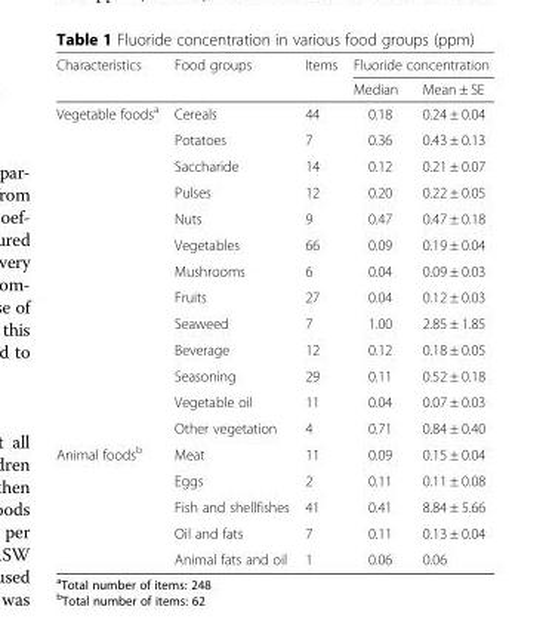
<table><thead><tr><td rowspan="2">Characteristics</td><td rowspan="2">Food groups</td><td rowspan="2">Items</td><td colspan="2">Fluoride concentration</td></tr><tr><td>Median</td><td>Mean ± SE</td></tr></thead><tbody><tr><td rowspan="13">Vegetable foods<sup>a</sup></td><td>Cereals</td><td>44</td><td>0.18</td><td>0.24 ± 0.04</td></tr><tr><td>Potatoes</td><td>7</td><td>0.36</td><td>0.43 ± 0.13</td></tr><tr><td>Saccharide</td><td>14</td><td>0.12</td><td>0.21 ± 0.07</td></tr><tr><td>Pulses</td><td>12</td><td>0.20</td><td>0.22 ± 0.05</td></tr><tr><td>Nuts</td><td>9</td><td>0.47</td><td>0.47 ± 0.18</td></tr><tr><td>Vegetables</td><td>66</td><td>0.09</td><td>0.19 ± 0.04</td></tr><tr><td>Mushrooms</td><td>6</td><td>0.04</td><td>0.09 ± 0.03</td></tr><tr><td>Fruits</td><td>27</td><td>0.04</td><td>0.12 ± 0.03</td></tr><tr><td>Seaweed</td><td>7</td><td>1.00</td><td>2.85 ± 1.85</td></tr><tr><td>Beverage</td><td>12</td><td>0.12</td><td>0.18 ± 0.05</td></tr><tr><td>Seasoning</td><td>29</td><td>0.11</td><td>0.52 ± 0.18</td></tr><tr><td>Vegetable oil</td><td>11</td><td>0.04</td><td>0.07 ± 0.03</td></tr><tr><td>Other vegetation</td><td>4</td><td>0.71</td><td>0.84 ± 0.40</td></tr><tr><td rowspan="5">Animal foods<sup>b</sup></td><td>Meat</td><td>11</td><td>0.09</td><td>0.15 ± 0.04</td></tr><tr><td>Eggs</td><td>2</td><td>0.11</td><td>0.11 ± 0.08</td></tr><tr><td>Fish and shellfishes</td><td>41</td><td>0.41</td><td>8.84 ± 5.66</td></tr><tr><td>Oil and fats</td><td>7</td><td>0.11</td><td>0.13 ± 0.04</td></tr><tr><td>Animal fats and oil</td><td>1</td><td>0.06</td><td>0.06</td></tr></tbody></table>